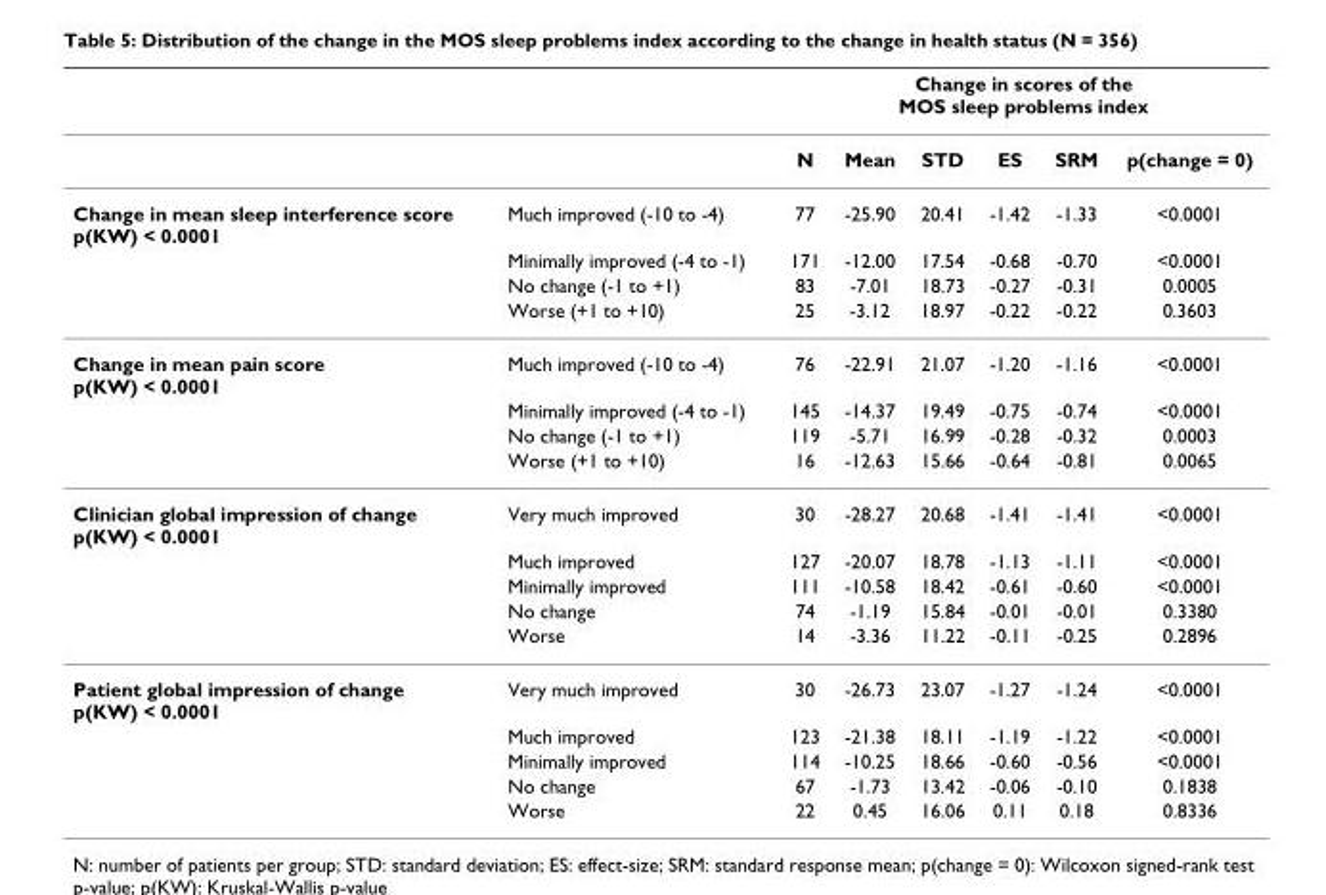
<table><thead><tr><td rowspan="2"></td><td rowspan="2"></td><td colspan="6">Change in scores of the MOS sleep problems index</td></tr><tr><td>N</td><td>Mean</td><td>STD</td><td>ES</td><td>SRM</td><td>p(change = 0)</td></tr></thead><tbody><tr><td rowspan="4">Change in mean sleep interference score p(KW) &lt; 0.0001</td><td>Much improved (-10 to -4)</td><td>77</td><td>-25.90</td><td>20.41</td><td>-1.42</td><td>-1.33</td><td>&lt;0.0001</td></tr><tr><td>Minimally improved (-4 to -1)</td><td>171</td><td>-12.00</td><td>17.54</td><td>-0.68</td><td>-0.70</td><td>&lt;0.0001</td></tr><tr><td>No change (-1 to +1)</td><td>83</td><td>-7.01</td><td>18.73</td><td>-0.27</td><td>-0.31</td><td>0.0005</td></tr><tr><td>Worse (+1 to +10)</td><td>25</td><td>-3.12</td><td>18.97</td><td>-0.22</td><td>-0.22</td><td>0.3603</td></tr><tr><td rowspan="4">Change in mean pain score p(KW) &lt; 0.0001</td><td>Much improved (-10 to -4)</td><td>76</td><td>-22.91</td><td>21.07</td><td>-1.20</td><td>-1.16</td><td>&lt;0.0001</td></tr><tr><td>Minimally improved (-4 to -1)</td><td>145</td><td>-14.37</td><td>19.49</td><td>-0.75</td><td>-0.74</td><td>&lt;0.0001</td></tr><tr><td>No change (-1 to +1)</td><td>119</td><td>-5.71</td><td>16.99</td><td>-0.28</td><td>-0.32</td><td>0.0003</td></tr><tr><td>Worse (+1 to +10)</td><td>16</td><td>-12.63</td><td>15.66</td><td>-0.64</td><td>-0.81</td><td>0.0065</td></tr><tr><td rowspan="5">Clinician global impression of change p(KW) &lt; 0.0001</td><td>Very much improved</td><td>30</td><td>-28.27</td><td>20.68</td><td>-1.41</td><td>-1.41</td><td>&lt;0.0001</td></tr><tr><td>Much improved</td><td>127</td><td>-20.07</td><td>18.78</td><td>-1.13</td><td>-1.11</td><td>&lt;0.0001</td></tr><tr><td>Minimally improved</td><td>111</td><td>-10.58</td><td>18.42</td><td>-0.61</td><td>-0.60</td><td>&lt;0.0001</td></tr><tr><td>No change</td><td>74</td><td>-1.19</td><td>15.84</td><td>-0.01</td><td>-0.01</td><td>0.3380</td></tr><tr><td>Worse</td><td>14</td><td>-3.36</td><td>11.22</td><td>-0.11</td><td>-0.25</td><td>0.2896</td></tr><tr><td rowspan="5">Patient global impression of change p(KW) &lt; 0.0001</td><td>Very much improved</td><td>30</td><td>-26.73</td><td>23.07</td><td>-1.27</td><td>-1.24</td><td>&lt;0.0001</td></tr><tr><td>Much improved</td><td>123</td><td>-21.38</td><td>18.11</td><td>-1.19</td><td>-1.22</td><td>&lt;0.0001</td></tr><tr><td>Minimally improved</td><td>114</td><td>-10.25</td><td>18.66</td><td>-0.60</td><td>-0.56</td><td>&lt;0.0001</td></tr><tr><td>No change</td><td>67</td><td>-1.73</td><td>13.42</td><td>-0.06</td><td>-0.10</td><td>0.1838</td></tr><tr><td>Worse</td><td>22</td><td>0.45</td><td>16.06</td><td>0.11</td><td>0.18</td><td>0.8336</td></tr></tbody></table>